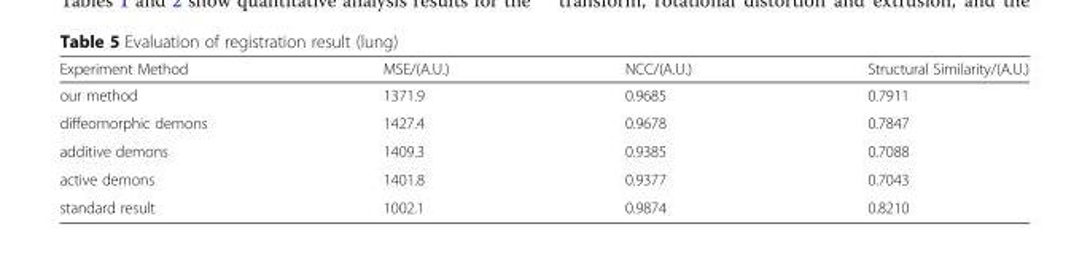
<table><thead><tr><td>Experiment Method</td><td>MSE/(A.U.)</td><td>NCC/(A.U.)</td><td>Structural Similarity/(A.U.)</td></tr></thead><tbody><tr><td>our method</td><td>1371.9</td><td>0.9685</td><td>0.7911</td></tr><tr><td>diffeomorphic demons</td><td>1427.4</td><td>0.9678</td><td>0.7847</td></tr><tr><td>additive demons</td><td>1409.3</td><td>0.9385</td><td>0.7088</td></tr><tr><td>active demons</td><td>1401.8</td><td>0.9377</td><td>0.7043</td></tr><tr><td>standard result</td><td>1002.1</td><td>0.9874</td><td>0.8210</td></tr></tbody></table>